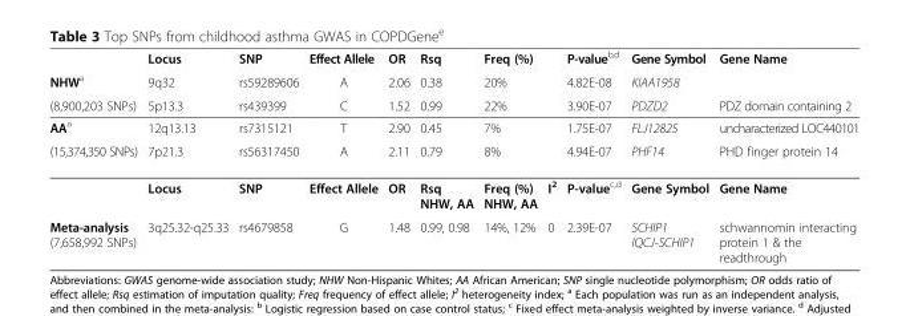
<table><thead><tr><td></td><td>Locus</td><td>SNP</td><td>Effect Allele</td><td>OR</td><td>Rsq</td><td>Freq (%)</td><td></td><td>P-value<sup>b,d</sup></td><td>Gene Symbol</td><td>Gene Name</td></tr></thead><tbody><tr><td>NHW<sup>a</sup></td><td>9q32</td><td>rs59289606</td><td>A</td><td>2.06</td><td>0.38</td><td>20%</td><td></td><td>4.82E-08</td><td>KIAA1958</td><td></td></tr><tr><td>(8,900,203 SNPs)</td><td>5p13.3</td><td>rs439399</td><td>C</td><td>1.52</td><td>0.99</td><td>22%</td><td></td><td>3.90E-07</td><td>PDZD2</td><td>PDZ domain containing 2</td></tr><tr><td>AA<sup>a</sup></td><td>12q13.13</td><td>rs7315121</td><td>T</td><td>2.90</td><td>0.45</td><td>7%</td><td></td><td>1.75E-07</td><td>FLJ12825</td><td>uncharacterized LOC440101</td></tr><tr><td rowspan="2">(15,374,350 SNPs)</td><td>7p21.3</td><td>rs56317450</td><td>A</td><td>2.11</td><td>0.79</td><td>8%</td><td></td><td>4.94E-07</td><td>PHF14</td><td>PHD finger protein 14</td></tr><tr><td>Locus</td><td>SNP</td><td>Effect Allele</td><td>OR</td><td>Rsq NHW, AA</td><td>Freq (%) NHW, AA</td><td>I<sup>2</sup></td><td>P-value<sup>c,d</sup></td><td>Gene Symbol</td><td>Gene Name</td></tr><tr><td>Meta-analysis (7,658,992 SNPs)</td><td>3q25.32-q25.33</td><td>rs4679858</td><td>G</td><td>1.48</td><td>0.99, 0.98</td><td>14%, 12%</td><td>0</td><td>2.39E-07</td><td>SCHIP1 IQCJ-SCHIP1</td><td>schwannomin interacting protein 1 &amp; the readthrough</td></tr></tbody></table>